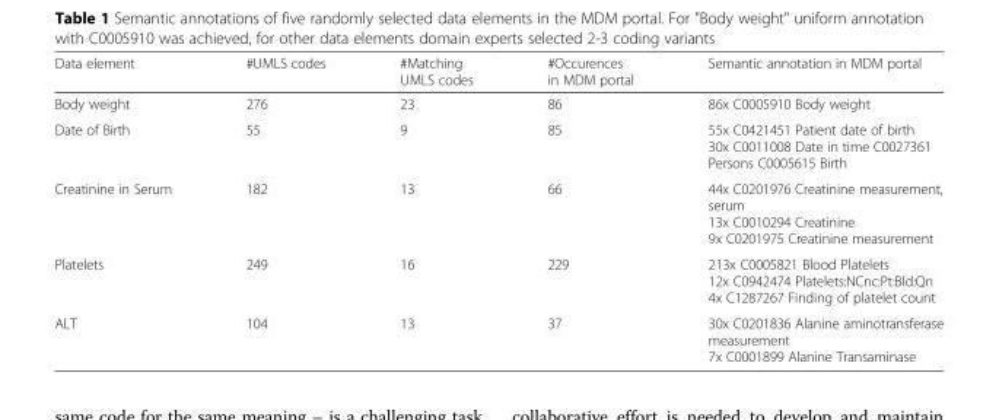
<table><thead><tr><td>Data element</td><td>#UMLS codes</td><td>#Matching UMLS codes</td><td>#Occurences in MDM portal</td><td>Semantic annotation in MDM portal</td></tr></thead><tbody><tr><td>Body weight</td><td>276</td><td>23</td><td>86</td><td>86x C0005910 Body weight</td></tr><tr><td>Date of Birth</td><td>55</td><td>9</td><td>85</td><td>55x C0421451 Patient date of birth 30x C0011008 Date in time C0027361 Persons C0005615 Birth</td></tr><tr><td>Creatinine in Serum</td><td>182</td><td>13</td><td>66</td><td>44x C0201976 Creatinine measurement, serum 13x C0010294 Creatinine 9x C0201975 Creatinine measurement</td></tr><tr><td>Platelets</td><td>249</td><td>16</td><td>229</td><td>213x C0005821 Blood Platelets 12x C0942474 Platelets:NCnc:Pt:Bld:Qn 4x C1287267 Finding of platelet count</td></tr><tr><td>ALT</td><td>104</td><td>13</td><td>37</td><td>30x C0201836 Alanine aminotransferase measurement 7x C0001899 Alanine Transaminase</td></tr></tbody></table>